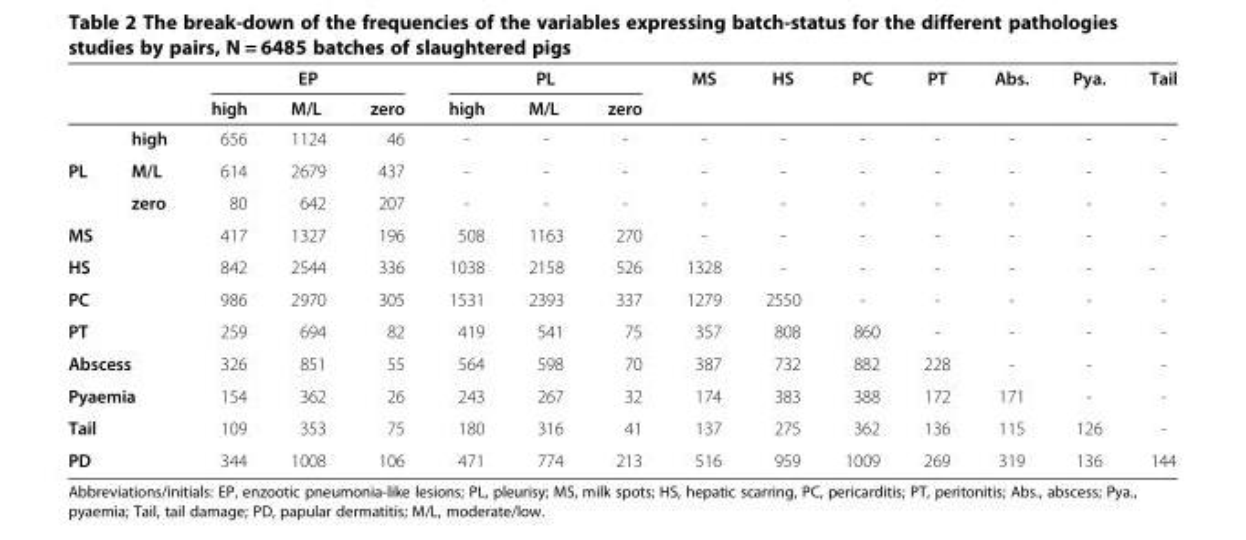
<table><thead><tr><td rowspan="2"></td><td rowspan="2"></td><td colspan="3">EP</td><td colspan="3">PL</td><td rowspan="2">MS</td><td rowspan="2">HS</td><td rowspan="2">PC</td><td rowspan="2">PT</td><td rowspan="2">Abs.</td><td rowspan="2">Pya.</td><td rowspan="2">Tail</td></tr><tr><td>high</td><td>M/L</td><td>zero</td><td>high</td><td>M/L</td><td>zero</td></tr></thead><tbody><tr><td></td><td>high</td><td>656</td><td>1124</td><td>46</td><td>-</td><td>-</td><td>-</td><td>-</td><td>-</td><td>-</td><td>-</td><td>-</td><td>-</td><td>-</td></tr><tr><td rowspan="2">PL</td><td>M/L</td><td>614</td><td>2679</td><td>437</td><td>-</td><td>-</td><td>-</td><td>-</td><td>-</td><td>-</td><td>-</td><td>-</td><td>-</td><td>-</td></tr><tr><td>zero</td><td>80</td><td>642</td><td>207</td><td>-</td><td>-</td><td>-</td><td>-</td><td>-</td><td>-</td><td>-</td><td>-</td><td>-</td><td>-</td></tr><tr><td colspan="2">MS</td><td>417</td><td>1327</td><td>196</td><td>508</td><td>1163</td><td>270</td><td>-</td><td>-</td><td>-</td><td>-</td><td>-</td><td>-</td><td>-</td></tr><tr><td colspan="2">HS</td><td>842</td><td>2544</td><td>336</td><td>1038</td><td>2158</td><td>526</td><td>1328</td><td>-</td><td>-</td><td>-</td><td>-</td><td>-</td><td>-</td></tr><tr><td colspan="2">PC</td><td>986</td><td>2970</td><td>305</td><td>1531</td><td>2393</td><td>337</td><td>1279</td><td>2550</td><td>-</td><td>-</td><td>-</td><td>-</td><td>-</td></tr><tr><td colspan="2">PT</td><td>259</td><td>694</td><td>82</td><td>419</td><td>541</td><td>75</td><td>357</td><td>808</td><td>860</td><td>-</td><td>-</td><td>-</td><td>-</td></tr><tr><td colspan="2">Abscess</td><td>326</td><td>851</td><td>55</td><td>564</td><td>598</td><td>70</td><td>387</td><td>732</td><td>882</td><td>228</td><td>-</td><td>-</td><td>-</td></tr><tr><td colspan="2">Pyaemia</td><td>154</td><td>362</td><td>26</td><td>243</td><td>267</td><td>32</td><td>174</td><td>383</td><td>388</td><td>172</td><td>171</td><td>-</td><td>-</td></tr><tr><td colspan="2">Tail</td><td>109</td><td>353</td><td>75</td><td>180</td><td>316</td><td>41</td><td>137</td><td>275</td><td>362</td><td>136</td><td>115</td><td>126</td><td>-</td></tr><tr><td colspan="2">PD</td><td>344</td><td>1008</td><td>106</td><td>471</td><td>774</td><td>213</td><td>516</td><td>959</td><td>1009</td><td>269</td><td>319</td><td>136</td><td>144</td></tr></tbody></table>